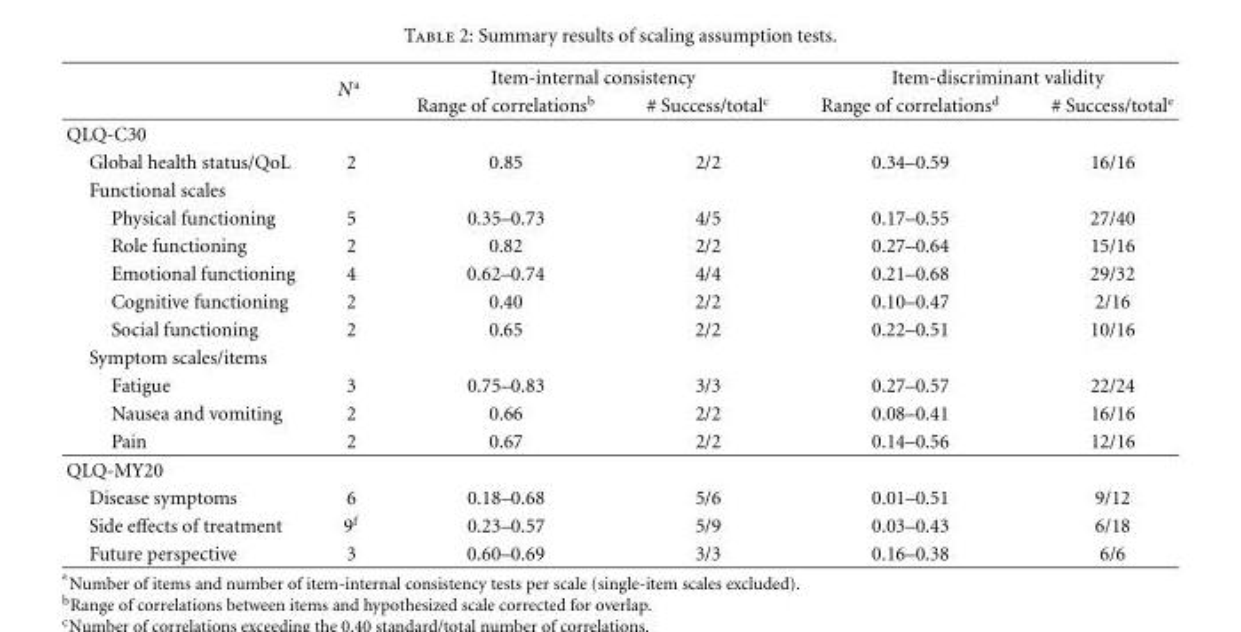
<table><thead><tr><td rowspan="2"></td><td rowspan="2">N<sup>a</sup></td><td colspan="2">Item-internal consistency</td><td colspan="2">Item-discriminant validity</td></tr><tr><td>Range of correlations<sup>b</sup></td><td># Success/total<sup>c</sup></td><td>Range of correlations<sup>d</sup></td><td># Success/total<sup>e</sup></td></tr></thead><tbody><tr><td colspan="6">QLQ-C30</td></tr><tr><td>Global health status/QoL</td><td>2</td><td>0.85</td><td>2/2</td><td>0.34–0.59</td><td>16/16</td></tr><tr><td colspan="6">Functional scales</td></tr><tr><td>Physical functioning</td><td>5</td><td>0.35–0.73</td><td>4/5</td><td>0.17–0.55</td><td>27/40</td></tr><tr><td>Role functioning</td><td>2</td><td>0.82</td><td>2/2</td><td>0.27–0.64</td><td>15/16</td></tr><tr><td>Emotional functioning</td><td>4</td><td>0.62–0.74</td><td>4/4</td><td>0.21–0.68</td><td>29/32</td></tr><tr><td>Cognitive functioning</td><td>2</td><td>0.40</td><td>2/2</td><td>0.10–0.47</td><td>2/16</td></tr><tr><td>Social functioning</td><td>2</td><td>0.65</td><td>2/2</td><td>0.22–0.51</td><td>10/16</td></tr><tr><td colspan="6">Symptom scales/items</td></tr><tr><td>Fatigue</td><td>3</td><td>0.75–0.83</td><td>3/3</td><td>0.27–0.57</td><td>22/24</td></tr><tr><td>Nausea and vomiting</td><td>2</td><td>0.66</td><td>2/2</td><td>0.08–0.41</td><td>16/16</td></tr><tr><td>Pain</td><td>2</td><td>0.67</td><td>2/2</td><td>0.14–0.56</td><td>12/16</td></tr><tr><td colspan="6">QLQ-MY20</td></tr><tr><td>Disease symptoms</td><td>6</td><td>0.18–0.68</td><td>5/6</td><td>0.01–0.51</td><td>9/12</td></tr><tr><td>Side effects of treatment</td><td>9<sup>f</sup></td><td>0.23–0.57</td><td>5/9</td><td>0.03–0.43</td><td>6/18</td></tr><tr><td>Future perspective</td><td>3</td><td>0.60–0.69</td><td>3/3</td><td>0.16–0.38</td><td>6/6</td></tr></tbody></table>